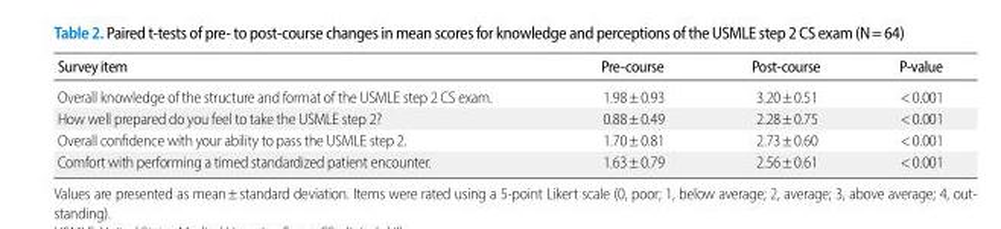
<table><thead><tr><td>Survey item</td><td>Pre-course</td><td>Post-course</td><td>P-value</td></tr></thead><tbody><tr><td>Overall knowledge of the structure and format of the USMLE step 2 CS exam.</td><td>1.98±0.93</td><td>3.20±0.51</td><td>&lt;0.001</td></tr><tr><td>How well prepared do you feel to take the USMLE step 2?</td><td>0.88±0.49</td><td>2.28±0.75</td><td>&lt;0.001</td></tr><tr><td>Overall confidence with your ability to pass the USMLE step 2.</td><td>1.70±0.81</td><td>2.73±0.60</td><td>&lt;0.001</td></tr><tr><td>Comfort with performing a timed standardized patient encounter.</td><td>1.63±0.79</td><td>2.56±0.61</td><td>&lt;0.001</td></tr></tbody></table>